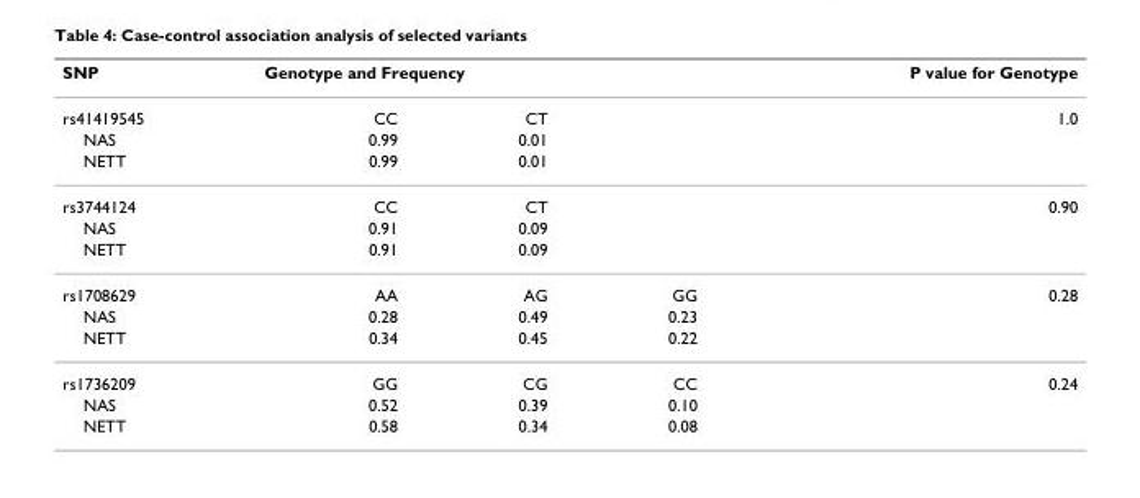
<table><thead><tr><td rowspan="2">SNP rs41419545</td><td colspan="3">Genotype and Frequency</td><td rowspan="2">P value for Genotype 1.0</td></tr><tr><td>CC</td><td>CT</td><td></td></tr></thead><tbody><tr><td>NAS</td><td>0.99</td><td>0.01</td><td></td><td></td></tr><tr><td>NETT</td><td>0.99</td><td>0.01</td><td></td><td></td></tr><tr><td>rs3744124</td><td>CC</td><td>CT</td><td></td><td>0.90</td></tr><tr><td>NAS</td><td>0.91</td><td>0.09</td><td></td><td></td></tr><tr><td>NETT</td><td>0.91</td><td>0.09</td><td></td><td></td></tr><tr><td>rs1708629</td><td>AA</td><td>AG</td><td>GG</td><td>0.28</td></tr><tr><td>NAS</td><td>0.28</td><td>0.49</td><td>0.23</td><td></td></tr><tr><td>NETT</td><td>0.34</td><td>0.45</td><td>0.22</td><td></td></tr><tr><td>rs1736209</td><td>GG</td><td>CG</td><td>CC</td><td>0.24</td></tr><tr><td>NAS</td><td>0.52</td><td>0.39</td><td>0.10</td><td></td></tr><tr><td>NETT</td><td>0.58</td><td>0.34</td><td>0.08</td><td></td></tr></tbody></table>